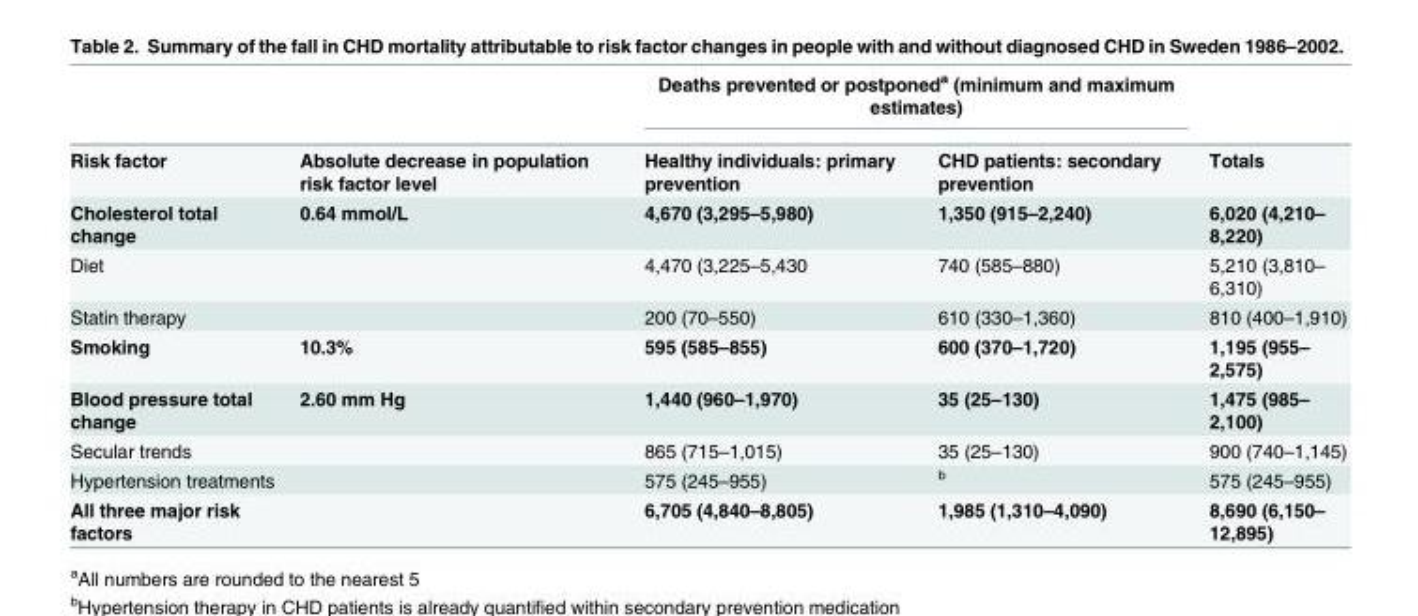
<table><thead><tr><td rowspan="2">Risk factor</td><td rowspan="2">Absolute decrease in population risk factor level</td><td colspan="2">Deaths prevented or postponed<sup>a</sup> (minimum and maximum estimates)</td><td rowspan="2">Totals</td></tr><tr><td>Healthy individuals: primary prevention</td><td>CHD patients: secondary prevention</td></tr></thead><tbody><tr><td>Cholesterol total change</td><td>0.64 mmol/L</td><td>4,670 (3,295–5,980)</td><td>1,350 (915–2,240)</td><td>6,020 (4,210– 8,220)</td></tr><tr><td>Diet</td><td></td><td>4,470 (3,225–5,430</td><td>740 (585–880)</td><td>5,210 (3,810– 6,310)</td></tr><tr><td>Statin therapy</td><td></td><td>200 (70–550)</td><td>610 (330–1,360)</td><td>810 (400–1,910)</td></tr><tr><td>Smoking</td><td>10.3%</td><td>595 (585–855)</td><td>600 (370–1,720)</td><td>1,195 (955– 2,575)</td></tr><tr><td>Blood pressure total change</td><td>2.60 mm Hg</td><td>1,440 (960–1,970)</td><td>35 (25–130)</td><td>1,475 (985– 2,100)</td></tr><tr><td>Secular trends</td><td></td><td>865 (715–1,015)</td><td>35 (25–130)</td><td>900 (740–1,145)</td></tr><tr><td>Hypertension treatments</td><td></td><td>575 (245–955)</td><td><sup>b</sup></td><td>575 (245–955)</td></tr><tr><td>All three major risk factors</td><td></td><td>6,705 (4,840–8,805)</td><td>1,985 (1,310–4,090)</td><td>8,690 (6,150– 12,895)</td></tr></tbody></table>